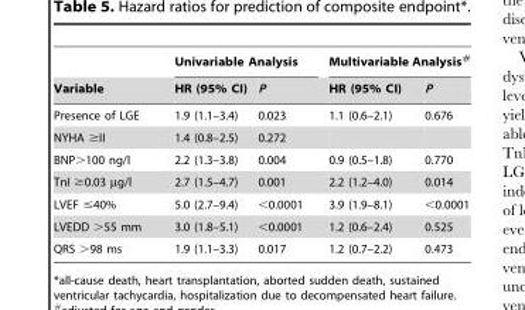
<table><thead><tr><td rowspan="2">Variable</td><td colspan="2">Univariable Analysis</td><td colspan="2">Multivariable Analysis#</td></tr><tr><td>HR (95% CI)</td><td>P</td><td>HR (95% CI)</td><td>P</td></tr></thead><tbody><tr><td>Presence of LGE</td><td>1.9 (1.1–3.4)</td><td>0.023</td><td>1.1 (0.6–2.1)</td><td>0.676</td></tr><tr><td>NYHA ≥II</td><td>1.4 (0.8–2.5)</td><td>0.272</td><td></td><td></td></tr><tr><td>BNP&gt;100 ng/l</td><td>2.2 (1.3–3.8)</td><td>0.004</td><td>0.9 (0.5–1.8)</td><td>0.770</td></tr><tr><td>TnI ≥0.03 µg/l</td><td>2.7 (1.5–4.7)</td><td>0.001</td><td>2.2 (1.2–4.0)</td><td>0.014</td></tr><tr><td>LVEF ≤40%</td><td>5.0 (2.7–9.4)</td><td>&lt;0.0001</td><td>3.9 (1.9–8.1)</td><td>&lt;0.0001</td></tr><tr><td>LVEDD &gt;55 mm</td><td>3.0 (1.8–5.1)</td><td>&lt;0.0001</td><td>1.2 (0.6–2.4)</td><td>0.525</td></tr><tr><td>QRS &gt;98 ms</td><td>1.9 (1.1–3.3)</td><td>0.017</td><td>1.2 (0.7–2.2)</td><td>0.473</td></tr></tbody></table>